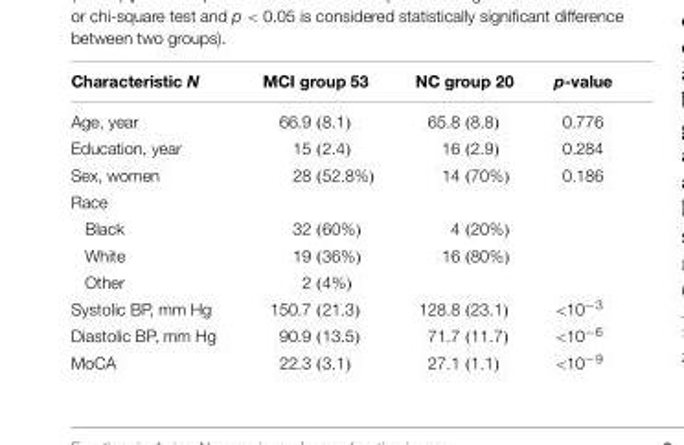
<table><thead><tr><td>Characteristic N</td><td>MCI group 53</td><td>NC group 20</td><td>p-value</td></tr></thead><tbody><tr><td>Age, year</td><td>66.9 (8.1)</td><td>65.8 (8.8)</td><td>0.776</td></tr><tr><td>Education, year</td><td>15 (2.4)</td><td>16 (2.9)</td><td>0.284</td></tr><tr><td>Sex, women</td><td>28 (52.8%)</td><td>14 (70%)</td><td>0.186</td></tr><tr><td colspan="4">Race</td></tr><tr><td>Black</td><td>32 (60%)</td><td>4 (20%)</td><td></td></tr><tr><td>White</td><td>19 (36%)</td><td>16 (80%)</td><td></td></tr><tr><td>Other</td><td>2 (4%)</td><td></td><td></td></tr><tr><td>Systolic BP, mm Hg</td><td>150.7 (21.3)</td><td>128.8 (23.1)</td><td>&lt;10<sup>−3</sup></td></tr><tr><td>Diastolic BP, mm Hg</td><td>90.9 (13.5)</td><td>71.7 (11.7)</td><td>&lt;10<sup>−6</sup></td></tr><tr><td>MoCA</td><td>22.3 (3.1)</td><td>27.1 (1.1)</td><td>&lt;10<sup>−9</sup></td></tr></tbody></table>